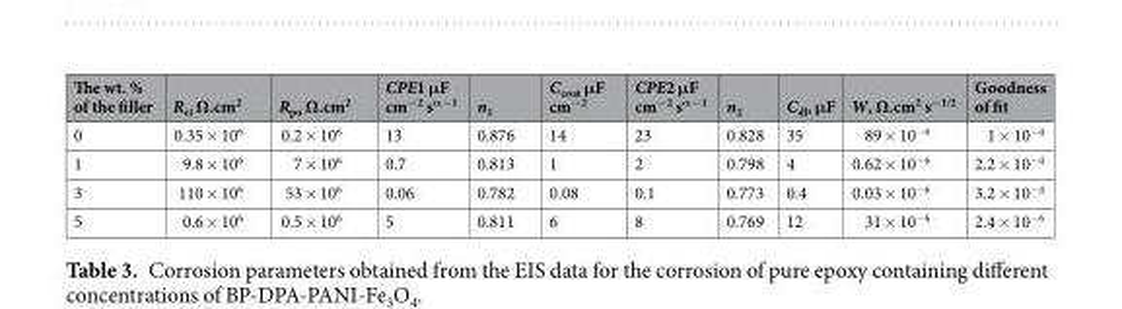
<table><thead><tr><td>The wt. % of the filler</td><td>R<sub>ct</sub> Ω.cm<sup>2</sup></td><td>R<sub>po</sub> Ω.cm<sup>2</sup></td><td>CPE1 μF cm<sup>−2</sup> s<sup>α−1</sup></td><td>n<sub>1</sub></td><td>C<sub>coat</sub> μF cm<sup>−2</sup></td><td>CPE2 μF cm<sup>−2</sup> s<sup>α−1</sup></td><td>n<sub>2</sub></td><td>C<sub>dl</sub>, μF</td><td>W, Ω.cm<sup>2</sup> s<sup>−1/2</sup></td><td>Goodness of fit</td></tr></thead><tbody><tr><td>0</td><td>0.35 × 10<sup>6</sup></td><td>0.2 × 10<sup>6</sup></td><td>13</td><td>0.876</td><td>14</td><td>23</td><td>0.828</td><td>35</td><td>89 × 10<sup>−6</sup></td><td>1 × 10<sup>−4</sup></td></tr><tr><td>1</td><td>9.8 × 10<sup>6</sup></td><td>7 × 10<sup>6</sup></td><td>0.7</td><td>0.813</td><td>1</td><td>2</td><td>0.798</td><td>4</td><td>0.62 × 10<sup>−6</sup></td><td>2.2 × 10<sup>−4</sup></td></tr><tr><td>3</td><td>110 × 10<sup>6</sup></td><td>53 × 10<sup>6</sup></td><td>0.06</td><td>0.782</td><td>0.08</td><td>0.1</td><td>0.773</td><td>0.4</td><td>0.03 × 10<sup>−6</sup></td><td>3.2 × 10<sup>−4</sup></td></tr><tr><td>5</td><td>0.6 × 10<sup>6</sup></td><td>0.5 × 10<sup>6</sup></td><td>5</td><td>0.811</td><td>6</td><td>8</td><td>0.769</td><td>12</td><td>31 × 10<sup>−6</sup></td><td>2.4 × 10<sup>−6</sup></td></tr></tbody></table>